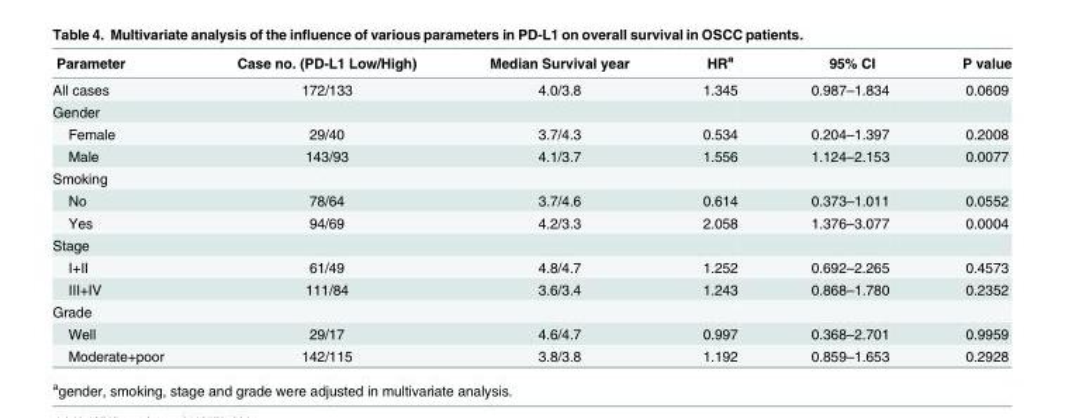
<table><thead><tr><td>Parameter</td><td>Case no. (PD-L1 Low/High)</td><td>Median Survival year</td><td>HR<sup>a</sup></td><td>95% CI</td><td>P value</td></tr></thead><tbody><tr><td>All cases</td><td>172/133</td><td>4.0/3.8</td><td>1.345</td><td>0.987–1.834</td><td>0.0609</td></tr><tr><td colspan="6">Gender</td></tr><tr><td>Female</td><td>29/40</td><td>3.7/4.3</td><td>0.534</td><td>0.204–1.397</td><td>0.2008</td></tr><tr><td>Male</td><td>143/93</td><td>4.1/3.7</td><td>1.556</td><td>1.124–2.153</td><td>0.0077</td></tr><tr><td colspan="6">Smoking</td></tr><tr><td>No</td><td>78/64</td><td>3.7/4.6</td><td>0.614</td><td>0.373–1.011</td><td>0.0552</td></tr><tr><td>Yes</td><td>94/69</td><td>4.2/3.3</td><td>2.058</td><td>1.376–3.077</td><td>0.0004</td></tr><tr><td colspan="6">Stage</td></tr><tr><td>I+II</td><td>61/49</td><td>4.8/4.7</td><td>1.252</td><td>0.692–2.265</td><td>0.4573</td></tr><tr><td>III+IV</td><td>111/84</td><td>3.6/3.4</td><td>1.243</td><td>0.868–1.780</td><td>0.2352</td></tr><tr><td colspan="6">Grade</td></tr><tr><td>Well</td><td>29/17</td><td>4.6/4.7</td><td>0.997</td><td>0.368–2.701</td><td>0.9959</td></tr><tr><td>Moderate+poor</td><td>142/115</td><td>3.8/3.8</td><td>1.192</td><td>0.859–1.653</td><td>0.2928</td></tr></tbody></table>